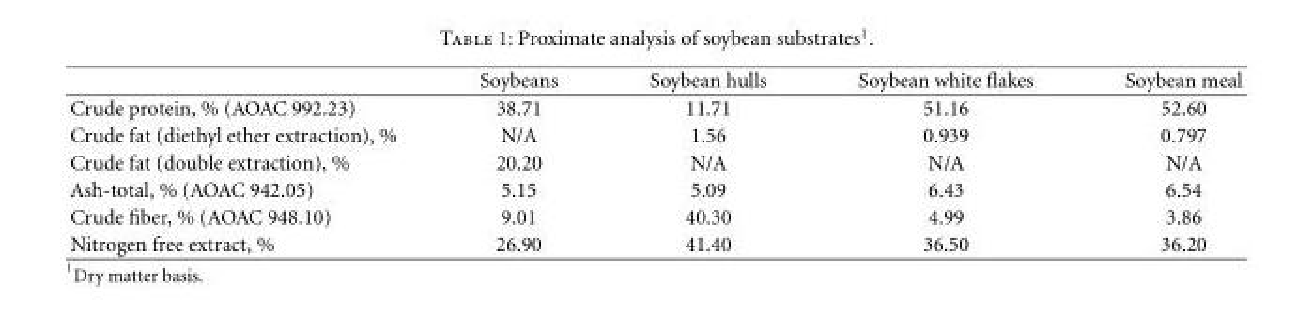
<table><thead><tr><td></td><td>Soybeans</td><td>Soybean hulls</td><td>Soybean white flakes</td><td>Soybean meal</td></tr></thead><tbody><tr><td>Crude protein, % (AOAC 992.23)</td><td>38.71</td><td>11.71</td><td>51.16</td><td>52.60</td></tr><tr><td>Crude fat (diethyl ether extraction), %</td><td>N/A</td><td>1.56</td><td>0.939</td><td>0.797</td></tr><tr><td>Crude fat (double extraction), %</td><td>20.20</td><td>N/A</td><td>N/A</td><td>N/A</td></tr><tr><td>Ash-total, % (AOAC 942.05)</td><td>5.15</td><td>5.09</td><td>6.43</td><td>6.54</td></tr><tr><td>Crude fiber, % (AOAC 948.10)</td><td>9.01</td><td>40.30</td><td>4.99</td><td>3.86</td></tr><tr><td>Nitrogen free extract, %</td><td>26.90</td><td>41.40</td><td>36.50</td><td>36.20</td></tr></tbody></table>